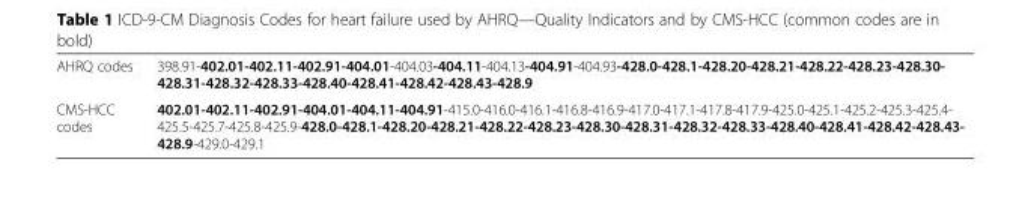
<table><tbody><tr><td>AHRQ codes</td><td>398.91-402.01-402.11-402.91-404.01-404.03-404.11-404.13-404.91-404.93-428.0-428.1-428.20-428.21-428.22-428.23-428.30- 428.31-428.32-428.33-428.40-428.41-428.42-428.43-428.9</td></tr><tr><td>CMS-HCC codes</td><td>402.01-402.11-402.91-404.01-404.11-404.91-415.0-416.0-416.1-416.8-416.9-417.0-417.1-417.8-417.9-425.0-425.1-425.2-425.3-425.4- 425.5-425.7-425.8-425.9-428.0-428.1-428.20-428.21-428.22-428.23-428.30-428.31-428.32-428.33-428.40-428.41-428.42-428.43- 428.9-429.0-429.1</td></tr></tbody></table>